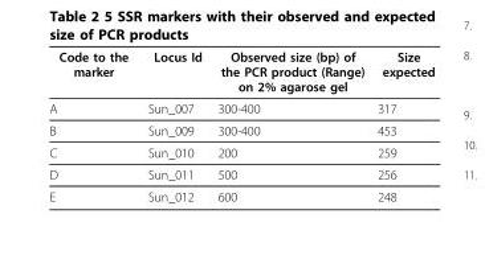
<table><thead><tr><td>Code to the marker</td><td>Locus Id</td><td>Observed size (bp) of the PCR product (Range) on 2% agarose gel</td><td>Size expected</td></tr></thead><tbody><tr><td>A</td><td>Sun_007</td><td>300-400</td><td>317</td></tr><tr><td>B</td><td>Sun_009</td><td>300-400</td><td>453</td></tr><tr><td>C</td><td>Sun_010</td><td>200</td><td>259</td></tr><tr><td>D</td><td>Sun_011</td><td>500</td><td>256</td></tr><tr><td>E</td><td>Sun_012</td><td>600</td><td>248</td></tr></tbody></table>